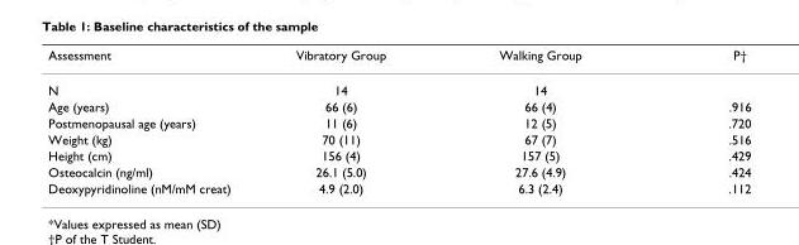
<table><thead><tr><td>Assessment</td><td>Vibratory Group</td><td>Walking Group</td><td>P†</td></tr></thead><tbody><tr><td>N</td><td>14</td><td>14</td><td></td></tr><tr><td>Age (years)</td><td>66 (6)</td><td>66 (4)</td><td>.916</td></tr><tr><td>Postmenopausal age (years)</td><td>11 (6)</td><td>12 (5)</td><td>.720</td></tr><tr><td>Weight (kg)</td><td>70 (11)</td><td>67 (7)</td><td>.516</td></tr><tr><td>Height (cm)</td><td>156 (4)</td><td>157 (5)</td><td>.429</td></tr><tr><td>Osteocalcin (ng/ml)</td><td>26.1 (5.0)</td><td>27.6 (4.9)</td><td>.424</td></tr><tr><td>Deoxypyridinoline (nM/mM creat)</td><td>4.9 (2.0)</td><td>6.3 (2.4)</td><td>.112</td></tr></tbody></table>